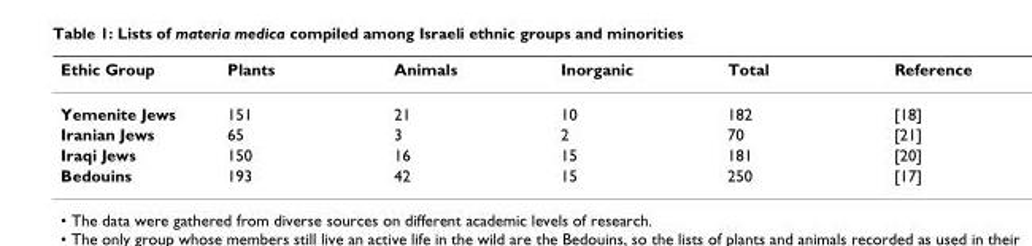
<table><thead><tr><td>Ethic Group</td><td>Plants</td><td>Animals</td><td>Inorganic</td><td>Total</td><td>Reference</td></tr></thead><tbody><tr><td>Yemenite Jews</td><td>151</td><td>21</td><td>10</td><td>182</td><td>[18]</td></tr><tr><td>Iranian Jews</td><td>65</td><td>3</td><td>2</td><td>70</td><td>[21]</td></tr><tr><td>Iraqi Jews</td><td>150</td><td>16</td><td>15</td><td>181</td><td>[20]</td></tr><tr><td>Bedouins</td><td>193</td><td>42</td><td>15</td><td>250</td><td>[17]</td></tr></tbody></table>